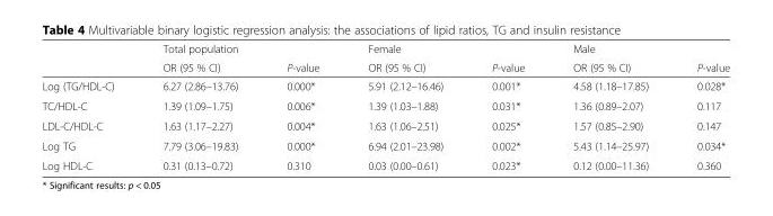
<table><thead><tr><td rowspan="2"></td><td rowspan="2">Total population OR (95 % CI)</td><td rowspan="2">P-value</td><td rowspan="2">Female OR (95 % CI)</td><td rowspan="2">P-value</td><td rowspan="2">Male OR (95 % CI)</td><td rowspan="2">P-value</td></tr><tr></tr></thead><tbody><tr><td>Log (TG/HDL-C)</td><td>6.27 (2.86–13.76)</td><td>0.000*</td><td>5.91 (2.12–16.46)</td><td>0.001*</td><td>4.58 (1.18–17.85)</td><td>0.028*</td></tr><tr><td>TC/HDL-C</td><td>1.39 (1.09–1.75)</td><td>0.006*</td><td>1.39 (1.03–1.88)</td><td>0.031*</td><td>1.36 (0.89–2.07)</td><td>0.117</td></tr><tr><td>LDL-C/HDL-C</td><td>1.63 (1.17–2.27)</td><td>0.004*</td><td>1.63 (1.06–2.51)</td><td>0.025*</td><td>1.57 (0.85–2.90)</td><td>0.147</td></tr><tr><td>Log TG</td><td>7.79 (3.06–19.83)</td><td>0.000*</td><td>6.94 (2.01–23.98)</td><td>0.002*</td><td>5.43 (1.14–25.97)</td><td>0.034*</td></tr><tr><td>Log HDL-C</td><td>0.31 (0.13–0.72)</td><td>0.310</td><td>0.03 (0.00–0.61)</td><td>0.023*</td><td>0.12 (0.00–11.36)</td><td>0.360</td></tr></tbody></table>